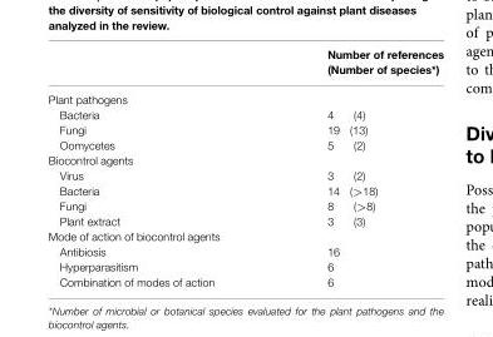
<table><thead><tr><td rowspan="2">Plant pathogens</td><td colspan="2">Number of references (Number of species*)</td></tr><tr><td></td><td></td></tr></thead><tbody><tr><td>Bacteria</td><td>4</td><td>(4)</td></tr><tr><td>Fungi</td><td>19</td><td>(13)</td></tr><tr><td>Oomycetes</td><td>5</td><td>(2)</td></tr><tr><td colspan="3">Biocontrol agents</td></tr><tr><td>Virus</td><td>3</td><td>(2)</td></tr><tr><td>Bacteria</td><td>14</td><td>(&gt;18)</td></tr><tr><td>Fungi</td><td>8</td><td>(&gt;8)</td></tr><tr><td>Plant extract</td><td>3</td><td>(3)</td></tr><tr><td colspan="3">Mode of action of biocontrol agents</td></tr><tr><td>Antibiosis</td><td>16</td><td></td></tr><tr><td>Hyperparasitism</td><td>6</td><td></td></tr><tr><td>Combination of modes of action</td><td>6</td><td></td></tr></tbody></table>